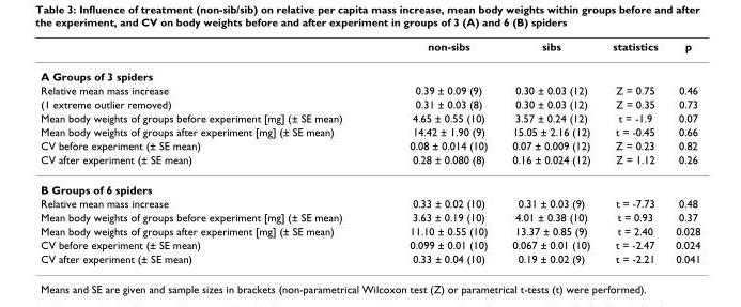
<table><thead><tr><td></td><td>non-sibs</td><td>sibs</td><td>statistics</td><td>p</td></tr></thead><tbody><tr><td colspan="5">A Groups of 3 spiders</td></tr><tr><td>Relative mean mass increase</td><td>0.39 ± 0.09 (9)</td><td>0.30 ± 0.03 (12)</td><td>Z = 0.75</td><td>0.46</td></tr><tr><td>(1 extreme outlier removed)</td><td>0.31 ± 0.03 (8)</td><td>0.30 ± 0.03 (12)</td><td>Z = 0.35</td><td>0.73</td></tr><tr><td>Mean body weights of groups before experiment [mg] (± SE mean)</td><td>4.65 ± 0.55 (10)</td><td>3.57 ± 0.24 (12)</td><td>t = -1.9</td><td>0.07</td></tr><tr><td>Mean body weights of groups after experiment [mg] (± SE mean)</td><td>14.42 ± 1.90 (9)</td><td>15.05 ± 2.16 (12)</td><td>t = -0.45</td><td>0.66</td></tr><tr><td>CV before experiment (± SE mean)</td><td>0.08 ± 0.014 (10)</td><td>0.07 ± 0.009 (12)</td><td>Z = 0.23</td><td>0.82</td></tr><tr><td>CV after experiment (± SE mean)</td><td>0.28 ± 0.080 (8)</td><td>0.16 ± 0.024 (12)</td><td>Z = 1.12</td><td>0.26</td></tr><tr><td colspan="5">B Groups of 6 spiders</td></tr><tr><td>Relative mean mass increase</td><td>0.33 ± 0.02 (10)</td><td>0.31 ± 0.03 (9)</td><td>t = -7.73</td><td>0.48</td></tr><tr><td>Mean body weights of groups before experiment [mg] (± SE mean)</td><td>3.63 ± 0.19 (10)</td><td>4.01 ± 0.38 (10)</td><td>t = 0.93</td><td>0.37</td></tr><tr><td>Mean body weights of groups after experiment [mg] (± SE mean)</td><td>11.10 ± 0.55 (10)</td><td>13.37 ± 0.85 (9)</td><td>t = 2.40</td><td>0.028</td></tr><tr><td>CV before experiment (± SE mean)</td><td>0.099 ± 0.01 (10)</td><td>0.067 ± 0.01 (10)</td><td>t = -2.47</td><td>0.024</td></tr><tr><td>CV after experiment (± SE mean)</td><td>0.33 ± 0.04 (10)</td><td>0.19 ± 0.02 (9)</td><td>t = -2.21</td><td>0.041</td></tr></tbody></table>